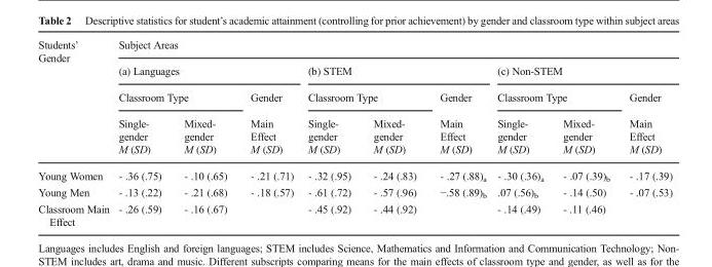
<table><thead><tr><td rowspan="5">Students’ Gender</td><td colspan="9">Subject Areas</td></tr><tr><td colspan="3">(a) Languages</td><td colspan="3">(b) STEM</td><td colspan="3">(c) Non-STEM</td></tr><tr><td colspan="2">Classroom Type</td><td rowspan="3">Gender Main Effect M (SD)</td><td colspan="2">Classroom Type</td><td rowspan="3">Gender Main Effect M (SD)</td><td colspan="2">Classroom Type</td><td rowspan="3">Gender Main Effect M (SD)</td></tr><tr><td rowspan="2">Single- gender M (SD)</td><td rowspan="2">Mixed- gender M (SD)</td><td rowspan="2">Single- gender M (SD)</td><td rowspan="2">Mixed- gender M (SD)</td><td rowspan="2">Single- gender M (SD)</td><td rowspan="2">Mixed- gender M (SD)</td></tr><tr></tr></thead><tbody><tr><td>Young Women</td><td>- .36 (.75)</td><td>- .10 (.65)</td><td>- .21 (.71)</td><td>- .32 (.95)</td><td>- .24 (.83)</td><td>- .27 (.88)<sub>a</sub></td><td>- .30 (.36)<sub>a</sub></td><td>- .07 (.39)<sub>b</sub></td><td>- .17 (.39)</td></tr><tr><td>Young Men</td><td>- .13 (.22)</td><td>- .21 (.68)</td><td>- .18 (.57)</td><td>- .61 (.72)</td><td>- .57 (.96)</td><td>−.58 (.89)<sub>b</sub></td><td>.07 (.56)<sub>b</sub></td><td>- .14 (.50)</td><td>- .07 (.53)</td></tr><tr><td>Classroom Main Effect</td><td>- .26 (.59)</td><td>- .16 (.67)</td><td></td><td>- .45 (.92)</td><td>- .44 (.92)</td><td></td><td>- .14 (.49)</td><td>- .11 (.46)</td><td></td></tr></tbody></table>